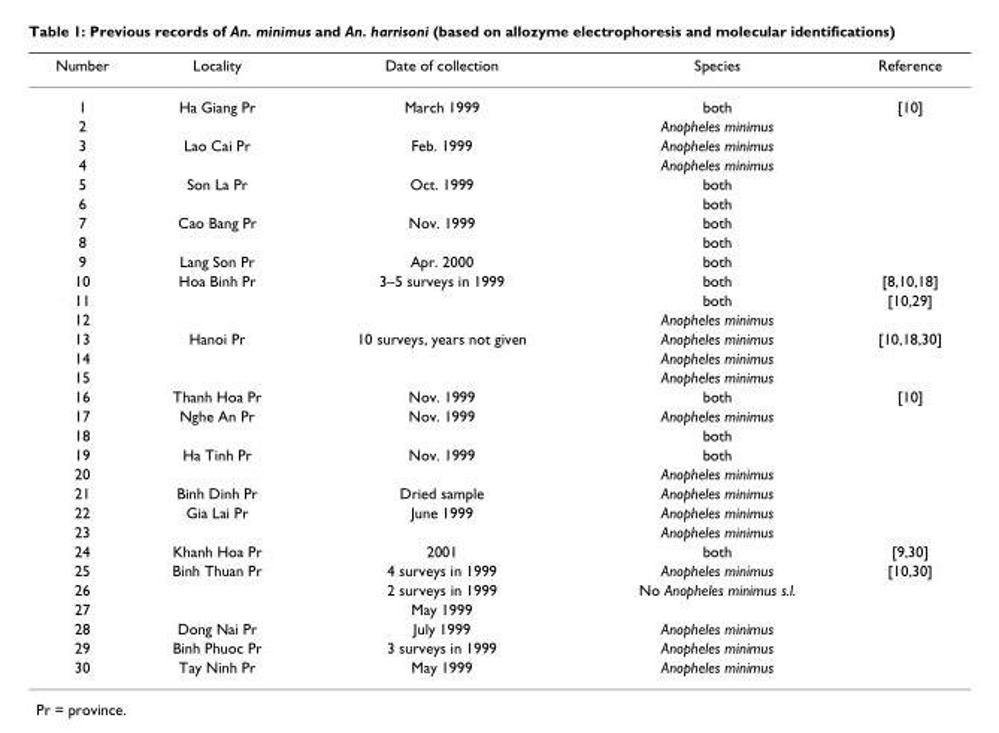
<table><thead><tr><td>Number</td><td>Locality</td><td>Date of collection</td><td>Species</td><td>Reference</td></tr></thead><tbody><tr><td>1</td><td>Ha Giang Pr</td><td>March 1999</td><td>both</td><td>[10]</td></tr><tr><td>2</td><td></td><td></td><td>Anopheles minimus</td><td></td></tr><tr><td>3</td><td>Lao Cai Pr</td><td>Feb. 1999</td><td>Anopheles minimus</td><td></td></tr><tr><td>4</td><td></td><td></td><td>Anopheles minimus</td><td></td></tr><tr><td>5</td><td>Son La Pr</td><td>Oct. 1999</td><td>both</td><td></td></tr><tr><td>6</td><td></td><td></td><td>both</td><td></td></tr><tr><td>7</td><td>Cao Bang Pr</td><td>Nov. 1999</td><td>both</td><td></td></tr><tr><td>8</td><td></td><td></td><td>both</td><td></td></tr><tr><td>9</td><td>Lang Son Pr</td><td>Apr. 2000</td><td>both</td><td></td></tr><tr><td>10</td><td>Hoa Binh Pr</td><td>3–5 surveys in 1999</td><td>both</td><td>[8,10,18]</td></tr><tr><td>11</td><td></td><td></td><td>both</td><td>[10,29]</td></tr><tr><td>12</td><td></td><td></td><td>Anopheles minimus</td><td></td></tr><tr><td>13</td><td>Hanoi Pr</td><td>10 surveys, years not given</td><td>Anopheles minimus</td><td>[10,18,30]</td></tr><tr><td>14</td><td></td><td></td><td>Anopheles minimus</td><td></td></tr><tr><td>15</td><td></td><td></td><td>Anopheles minimus</td><td></td></tr><tr><td>16</td><td>Thanh Hoa Pr</td><td>Nov. 1999</td><td>both</td><td>[10]</td></tr><tr><td>17</td><td>Nghe An Pr</td><td>Nov. 1999</td><td>Anopheles minimus</td><td></td></tr><tr><td>18</td><td></td><td></td><td>both</td><td></td></tr><tr><td>19</td><td>Ha Tinh Pr</td><td>Nov. 1999</td><td>both</td><td></td></tr><tr><td>20</td><td></td><td></td><td>Anopheles minimus</td><td></td></tr><tr><td>21</td><td>Binh Dinh Pr</td><td>Dried sample</td><td>Anopheles minimus</td><td></td></tr><tr><td>22</td><td>Gia Lai Pr</td><td>June 1999</td><td>Anopheles minimus</td><td></td></tr><tr><td>23</td><td></td><td></td><td>Anopheles minimus</td><td></td></tr><tr><td>24</td><td>Khanh Hoa Pr</td><td>2001</td><td>both</td><td>[9,30]</td></tr><tr><td>25</td><td>Binh Thuan Pr</td><td>4 surveys in 1999</td><td>Anopheles minimus</td><td>[10,30]</td></tr><tr><td>26</td><td></td><td>2 surveys in 1999</td><td>No Anopheles minimus s.l.</td><td></td></tr><tr><td>27</td><td></td><td>May 1999</td><td></td><td></td></tr><tr><td>28</td><td>Dong Nai Pr</td><td>July 1999</td><td>Anopheles minimus</td><td></td></tr><tr><td>29</td><td>Binh Phuoc Pr</td><td>3 surveys in 1999</td><td>Anopheles minimus</td><td></td></tr><tr><td>30</td><td>Tay Ninh Pr</td><td>May 1999</td><td>Anopheles minimus</td><td></td></tr></tbody></table>